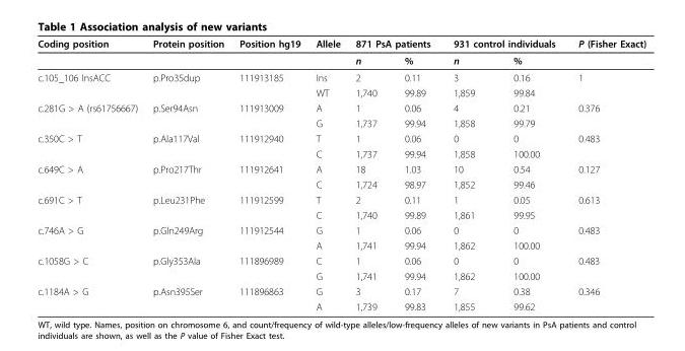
<table><thead><tr><td rowspan="2">Coding position</td><td rowspan="2">Protein position</td><td rowspan="2">Position hg19</td><td rowspan="2">Allele</td><td colspan="2">871 PsA patients</td><td colspan="2">931 control individuals</td><td rowspan="2">P (Fisher Exact)</td></tr><tr><td>n</td><td>%</td><td>n</td><td>%</td></tr></thead><tbody><tr><td rowspan="2">c.105_106 InsACC</td><td>p.Pro35dup</td><td>111913185</td><td>Ins</td><td>2</td><td>0.11</td><td>3</td><td>0.16</td><td>1</td></tr><tr><td></td><td></td><td>WT</td><td>1,740</td><td>99.89</td><td>1,859</td><td>99.84</td><td></td></tr><tr><td rowspan="2">c.281G &gt; A (rs61756667)</td><td>p.Ser94Asn</td><td>111913009</td><td>A</td><td>1</td><td>0.06</td><td>4</td><td>0.21</td><td>0.376</td></tr><tr><td></td><td></td><td>G</td><td>1,737</td><td>99.94</td><td>1,858</td><td>99.79</td><td></td></tr><tr><td rowspan="2">c.350C &gt; T</td><td>p.Ala117Val</td><td>111912940</td><td>T</td><td>1</td><td>0.06</td><td>0</td><td>0</td><td>0.483</td></tr><tr><td></td><td></td><td>C</td><td>1,737</td><td>99.94</td><td>1,858</td><td>100.00</td><td></td></tr><tr><td rowspan="2">c.649C &gt; A</td><td>p.Pro217Thr</td><td>111912641</td><td>A</td><td>18</td><td>1.03</td><td>10</td><td>0.54</td><td>0.127</td></tr><tr><td></td><td></td><td>C</td><td>1,724</td><td>98.97</td><td>1,852</td><td>99.46</td><td></td></tr><tr><td rowspan="2">c.691C &gt; T</td><td>p.Leu231Phe</td><td>111912599</td><td>T</td><td>2</td><td>0.11</td><td>1</td><td>0.05</td><td>0.613</td></tr><tr><td></td><td></td><td>C</td><td>1,740</td><td>99.89</td><td>1,861</td><td>99.95</td><td></td></tr><tr><td rowspan="2">c.746A &gt; G</td><td>p.Gln249Arg</td><td>111912544</td><td>G</td><td>1</td><td>0.06</td><td>0</td><td>0</td><td>0.483</td></tr><tr><td></td><td></td><td>A</td><td>1,741</td><td>99.94</td><td>1,862</td><td>100.00</td><td></td></tr><tr><td rowspan="2">c.1058G &gt; C</td><td>p.Gly353Ala</td><td>111896989</td><td>C</td><td>1</td><td>0.06</td><td>0</td><td>0</td><td>0.483</td></tr><tr><td></td><td></td><td>G</td><td>1,741</td><td>99.94</td><td>1,862</td><td>100.00</td><td></td></tr><tr><td rowspan="2">c.1184A &gt; G</td><td>p.Asn395Ser</td><td>111896863</td><td>G</td><td>3</td><td>0.17</td><td>7</td><td>0.38</td><td>0.346</td></tr><tr><td></td><td></td><td>A</td><td>1,739</td><td>99.83</td><td>1,855</td><td>99.62</td><td></td></tr></tbody></table>